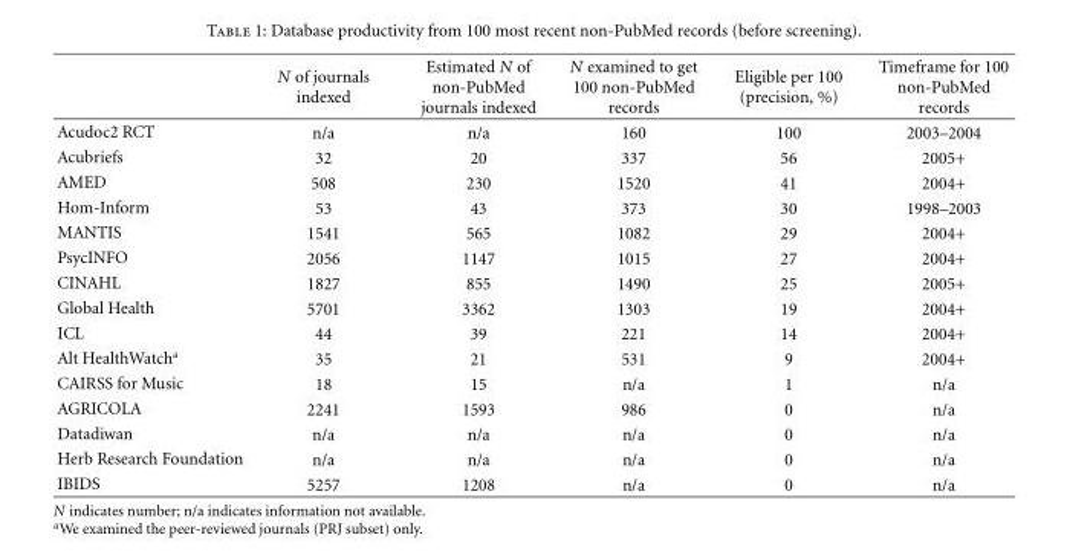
<table><thead><tr><td></td><td>N of journals indexed</td><td>Estimated N of non-PubMed journals indexed</td><td>N examined to get 100 non-PubMed records</td><td>Eligible per 100 (precision, %)</td><td>Timeframe for 100 non-PubMed records</td></tr></thead><tbody><tr><td>Acudoc2 RCT</td><td>n/a</td><td>n/a</td><td>160</td><td>100</td><td>2003–2004</td></tr><tr><td>Acubriefs</td><td>32</td><td>20</td><td>337</td><td>56</td><td>2005+</td></tr><tr><td>AMED</td><td>508</td><td>230</td><td>1520</td><td>41</td><td>2004+</td></tr><tr><td>Hom-Inform</td><td>53</td><td>43</td><td>373</td><td>30</td><td>1998–2003</td></tr><tr><td>MANTIS</td><td>1541</td><td>565</td><td>1082</td><td>29</td><td>2004+</td></tr><tr><td>PsycINFO</td><td>2056</td><td>1147</td><td>1015</td><td>27</td><td>2004+</td></tr><tr><td>CINAHL</td><td>1827</td><td>855</td><td>1490</td><td>25</td><td>2005+</td></tr><tr><td>Global Health</td><td>5701</td><td>3362</td><td>1303</td><td>19</td><td>2004+</td></tr><tr><td>ICL</td><td>44</td><td>39</td><td>221</td><td>14</td><td>2004+</td></tr><tr><td>Alt HealthWatch<sup>a</sup></td><td>35</td><td>21</td><td>531</td><td>9</td><td>2004+</td></tr><tr><td>CAIRSS for Music</td><td>18</td><td>15</td><td>n/a</td><td>1</td><td>n/a</td></tr><tr><td>AGRICOLA</td><td>2241</td><td>1593</td><td>986</td><td>0</td><td>n/a</td></tr><tr><td>Datadiwan</td><td>n/a</td><td>n/a</td><td>n/a</td><td>0</td><td>n/a</td></tr><tr><td>Herb Research Foundation</td><td>n/a</td><td>n/a</td><td>n/a</td><td>0</td><td>n/a</td></tr><tr><td>IBIDS</td><td>5257</td><td>1208</td><td>n/a</td><td>0</td><td>n/a</td></tr></tbody></table>